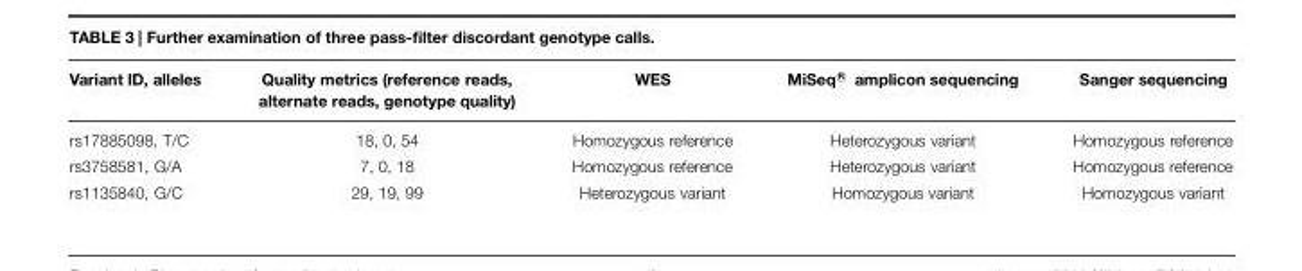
<table><thead><tr><td>Variant ID, alleles</td><td>Quality metrics (reference reads, alternate reads, genotype quality)</td><td>WES</td><td>MiSeq R⃝ amplicon sequencing</td><td>Sanger sequencing</td></tr></thead><tbody><tr><td>rs17885098, T/C</td><td>18, 0, 54</td><td>Homozygous reference</td><td>Heterozygous variant</td><td>Homozygous reference</td></tr><tr><td>rs3758581, G/A</td><td>7, 0, 18</td><td>Homozygous reference</td><td>Heterozygous variant</td><td>Homozygous reference</td></tr><tr><td>rs1135840, G/C</td><td>29, 19, 99</td><td>Heterozygous variant</td><td>Homozygous variant</td><td>Homozygous variant</td></tr></tbody></table>